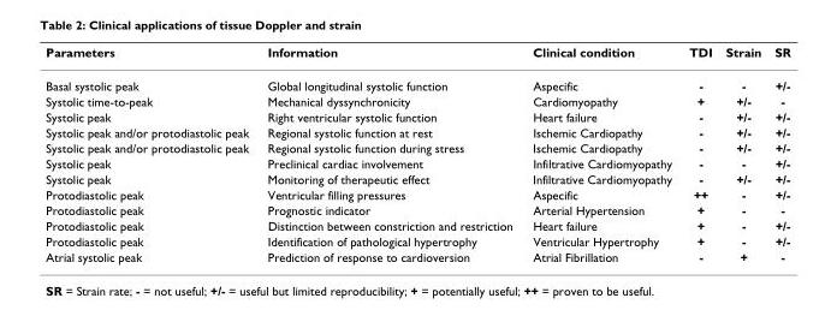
<table><thead><tr><td>Parameters</td><td>Information</td><td>Clinical condition</td><td>TDI</td><td>Strain</td><td>SR</td></tr></thead><tbody><tr><td>Basal systolic peak</td><td>Global longitudinal systolic function</td><td>Aspecific</td><td>-</td><td>-</td><td>+/-</td></tr><tr><td>Systolic time-to-peak</td><td>Mechanical dyssynchronicity</td><td>Cardiomyopathy</td><td>+</td><td>+/-</td><td>-</td></tr><tr><td>Systolic peak</td><td>Right ventricular systolic function</td><td>Heart failure</td><td>-</td><td>+/-</td><td>+/-</td></tr><tr><td>Systolic peak and/or protodiastolic peak</td><td>Regional systolic function at rest</td><td>Ischemic Cardiopathy</td><td>-</td><td>+/-</td><td>+/-</td></tr><tr><td>Systolic peak and/or protodiastolic peak</td><td>Regional systolic function during stress</td><td>Ischemic Cardiopathy</td><td>-</td><td>+/-</td><td>+/-</td></tr><tr><td>Systolic peak</td><td>Preclinical cardiac involvement</td><td>Infiltrative Cardiomyopathy</td><td>-</td><td>-</td><td>+/-</td></tr><tr><td>Systolic peak</td><td>Monitoring of therapeutic effect</td><td>Infiltrative Cardiomyopathy</td><td>-</td><td>+/-</td><td>+/-</td></tr><tr><td>Protodiastolic peak</td><td>Ventricular filling pressures</td><td>Aspecific</td><td>++</td><td>-</td><td>+/-</td></tr><tr><td>Protodiastolic peak</td><td>Prognostic indicator</td><td>Arterial Hypertension</td><td>+</td><td>-</td><td>-</td></tr><tr><td>Protodiastolic peak</td><td>Distinction between constriction and restriction</td><td>Heart failure</td><td>+</td><td>-</td><td>+/-</td></tr><tr><td>Protodiastolic peak</td><td>Identification of pathological hypertrophy</td><td>Ventricular Hypertrophy</td><td>+</td><td>-</td><td>+/-</td></tr><tr><td>Atrial systolic peak</td><td>Prediction of response to cardioversion</td><td>Atrial Fibrillation</td><td>-</td><td>+</td><td>-</td></tr></tbody></table>